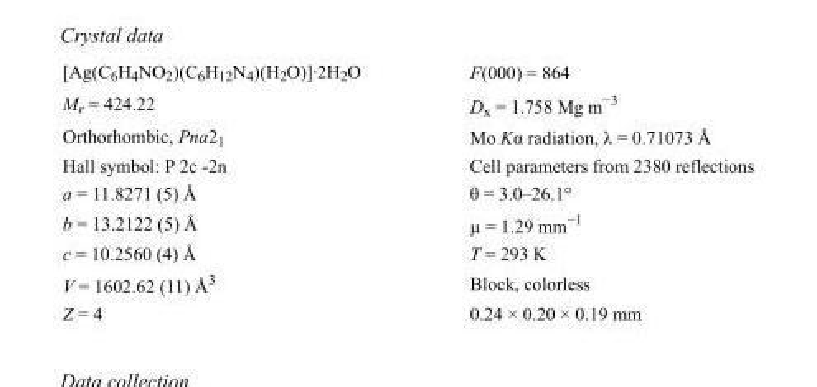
<table><tbody><tr><td>[Ag(C<sub>6</sub>H<sub>4</sub>NO<sub>2</sub>)(C<sub>6</sub>H<sub>12</sub>N<sub>4</sub>)(H<sub>2</sub>O)]·2H<sub>2</sub>O</td><td>F(000) = 864</td></tr><tr><td>M<sub>r</sub> = 424.22</td><td>D<sub>x</sub> = 1.758 Mg m<sup>−3</sup></td></tr><tr><td>Orthorhombic, Pna2<sub>1</sub></td><td>Mo Kα radiation, λ = 0.71073 Å</td></tr><tr><td>Hall symbol: P 2c -2n</td><td>Cell parameters from 2380 reflections</td></tr><tr><td>a = 11.8271 (5) Å</td><td>θ = 3.0–26.1°</td></tr><tr><td>b = 13.2122 (5) Å</td><td>µ = 1.29 mm<sup>−1</sup></td></tr><tr><td>c = 10.2560 (4) Å</td><td>T = 293 K</td></tr><tr><td>V = 1602.62 (11) Å<sup>3</sup></td><td>Block, colorless</td></tr><tr><td>Z = 4</td><td>0.24 × 0.20 × 0.19 mm</td></tr></tbody></table>